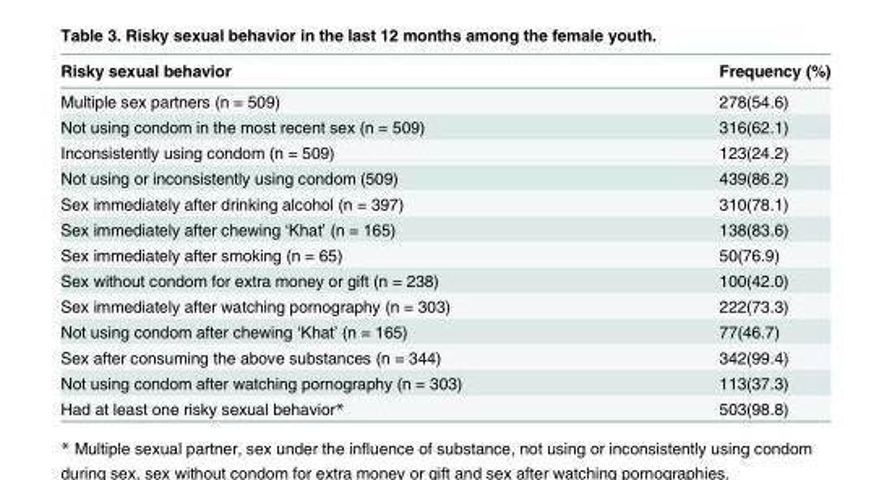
<table><thead><tr><td>Risky sexual behavior</td><td>Frequency (%)</td></tr></thead><tbody><tr><td>Multiple sex partners (n = 509)</td><td>278(54.6)</td></tr><tr><td>Not using condom in the most recent sex (n = 509)</td><td>316(62.1)</td></tr><tr><td>Inconsistently using condom (n = 509)</td><td>123(24.2)</td></tr><tr><td>Not using or inconsistently using condom (509)</td><td>439(86.2)</td></tr><tr><td>Sex immediately after drinking alcohol (n = 397)</td><td>310(78.1)</td></tr><tr><td>Sex immediately after chewing ‘Khat’ (n = 165)</td><td>138(83.6)</td></tr><tr><td>Sex immediately after smoking (n = 65)</td><td>50(76.9)</td></tr><tr><td>Sex without condom for extra money or gift (n = 238)</td><td>100(42.0)</td></tr><tr><td>Sex immediately after watching pornography (n = 303)</td><td>222(73.3)</td></tr><tr><td>Not using condom after chewing ‘Khat’ (n = 165)</td><td>77(46.7)</td></tr><tr><td>Sex after consuming the above substances (n = 344)</td><td>342(99.4)</td></tr><tr><td>Not using condom after watching pornography (n = 303)</td><td>113(37.3)</td></tr><tr><td>Had at least one risky sexual behavior*</td><td>503(98.8)</td></tr></tbody></table>